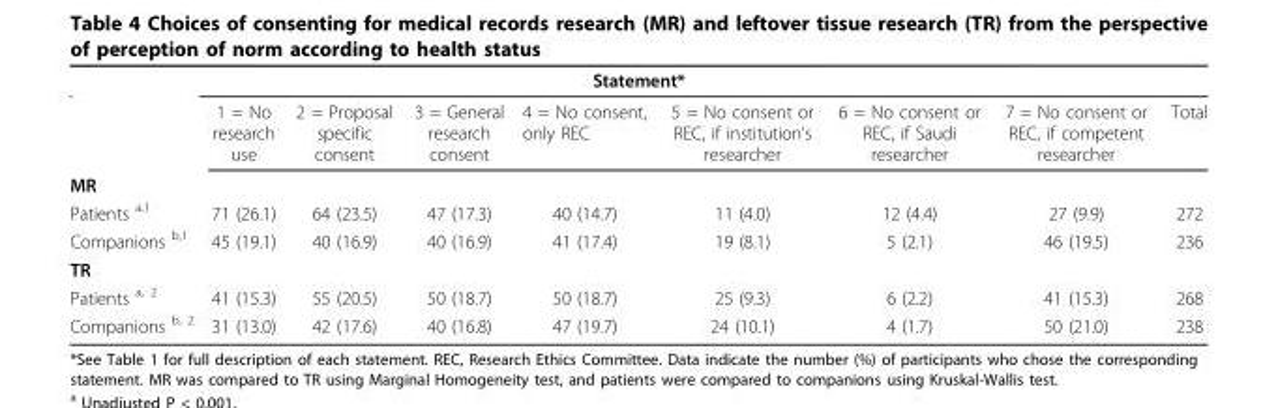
<table><thead><tr><td colspan="9">Statement*</td></tr><tr><td></td><td>1 = No research use</td><td>2 = Proposal specific consent</td><td>3 = General research consent</td><td>4 = No consent, only REC</td><td>5 = No consent or REC, if institution’s researcher</td><td>6 = No consent or REC, if Saudi researcher</td><td>7 = No consent or REC, if competent researcher</td><td>Total</td></tr></thead><tbody><tr><td colspan="9">MR</td></tr><tr><td>Patients <sup>a,1</sup></td><td>71 (26.1)</td><td>64 (23.5)</td><td>47 (17.3)</td><td>40 (14.7)</td><td>11 (4.0)</td><td>12 (4.4)</td><td>27 (9.9)</td><td>272</td></tr><tr><td>Companions <sup>b,1</sup></td><td>45 (19.1)</td><td>40 (16.9)</td><td>40 (16.9)</td><td>41 (17.4)</td><td>19 (8.1)</td><td>5 (2.1)</td><td>46 (19.5)</td><td>236</td></tr><tr><td colspan="9">TR</td></tr><tr><td>Patients <sup>a, 2</sup></td><td>41 (15.3)</td><td>55 (20.5)</td><td>50 (18.7)</td><td>50 (18.7)</td><td>25 (9.3)</td><td>6 (2.2)</td><td>41 (15.3)</td><td>268</td></tr><tr><td>Companions <sup>b, 2</sup></td><td>31 (13.0)</td><td>42 (17.6)</td><td>40 (16.8)</td><td>47 (19.7)</td><td>24 (10.1)</td><td>4 (1.7)</td><td>50 (21.0)</td><td>238</td></tr></tbody></table>